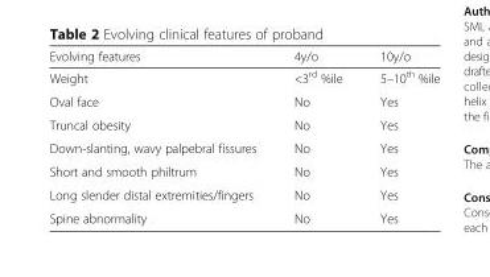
<table><thead><tr><td>Evolving features</td><td>4y/o</td><td>10y/o</td></tr></thead><tbody><tr><td>Weight</td><td>&lt;3<sup>rd</sup> %ile</td><td>5–10<sup>th</sup> %ile</td></tr><tr><td>Oval face</td><td>No</td><td>Yes</td></tr><tr><td>Truncal obesity</td><td>No</td><td>Yes</td></tr><tr><td>Down-slanting, wavy palpebral fissures</td><td>No</td><td>Yes</td></tr><tr><td>Short and smooth philtrum</td><td>No</td><td>Yes</td></tr><tr><td>Long slender distal extremities/fingers</td><td>No</td><td>Yes</td></tr><tr><td>Spine abnormality</td><td>No</td><td>Yes</td></tr></tbody></table>